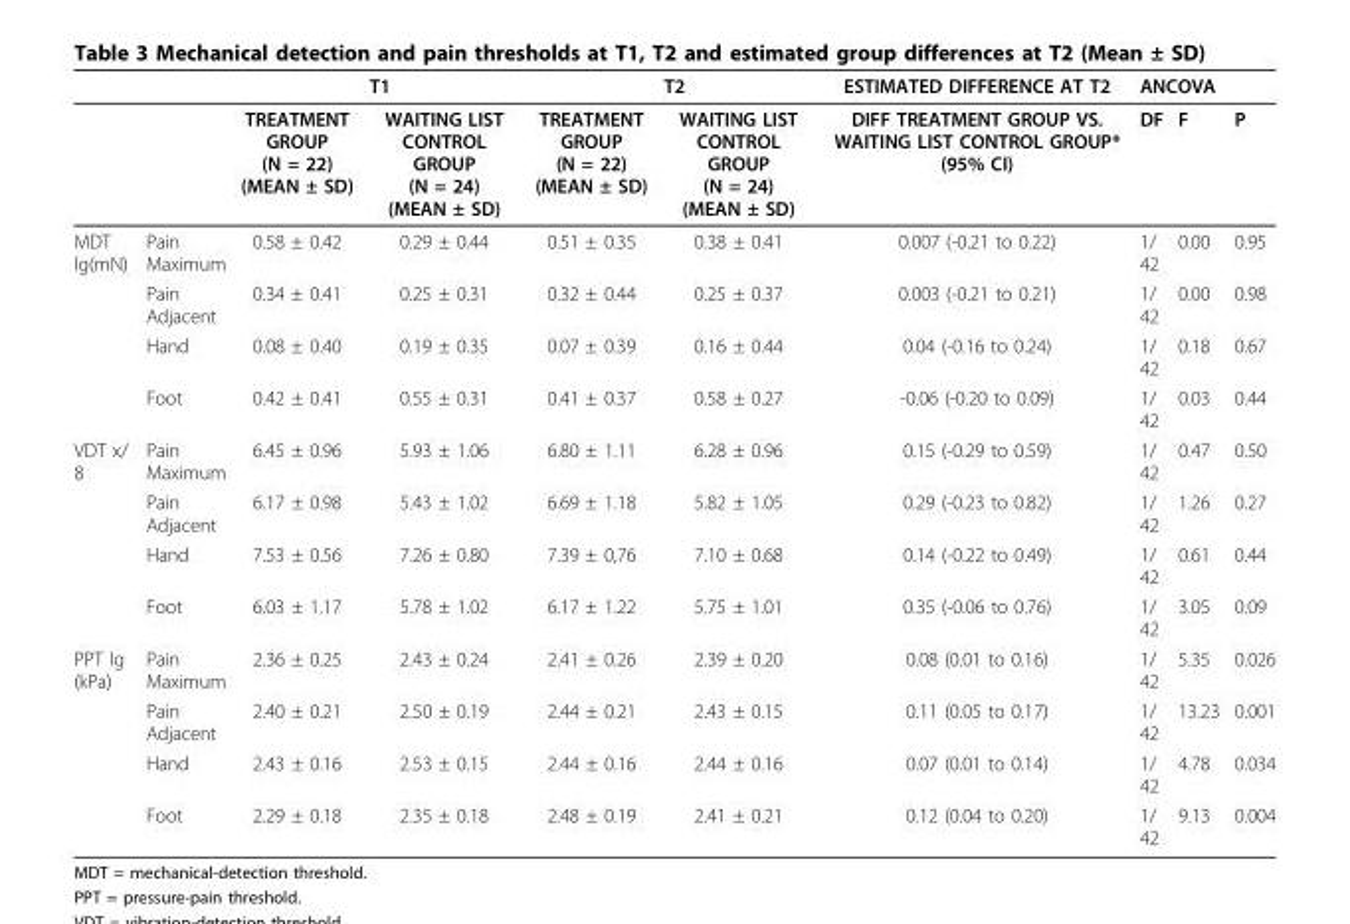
<table><thead><tr><td rowspan="2"></td><td rowspan="2"></td><td colspan="2">T1</td><td colspan="2">T2</td><td rowspan="2">ESTIMATED DIFFERENCE AT T2 DIFF TREATMENT GROUP VS. WAITING LIST CONTROL GROUP* (95% CI)</td><td colspan="3">ANCOVA</td></tr><tr><td>TREATMENT GROUP (N = 22) (MEAN ± SD)</td><td>WAITING LIST CONTROL GROUP (N = 24) (MEAN ± SD)</td><td>TREATMENT GROUP (N = 22) (MEAN ± SD)</td><td>WAITING LIST CONTROL GROUP (N = 24) (MEAN ± SD)</td><td>DF</td><td>F</td><td>P</td></tr></thead><tbody><tr><td rowspan="4">MDT lg(mN)</td><td>Pain Maximum</td><td>0.58 ± 0.42</td><td>0.29 ± 0.44</td><td>0.51 ± 0.35</td><td>0.38 ± 0.41</td><td>0.007 (-0.21 to 0.22)</td><td>1/ 42</td><td>0.00</td><td>0.95</td></tr><tr><td>Pain Adjacent</td><td>0.34 ± 0.41</td><td>0.25 ± 0.31</td><td>0.32 ± 0.44</td><td>0.25 ± 0.37</td><td>0.003 (-0.21 to 0.21)</td><td>1/ 42</td><td>0.00</td><td>0.98</td></tr><tr><td>Hand</td><td>0.08 ± 0.40</td><td>0.19 ± 0.35</td><td>0.07 ± 0.39</td><td>0.16 ± 0.44</td><td>0.04 (-0.16 to 0.24)</td><td>1/ 42</td><td>0.18</td><td>0.67</td></tr><tr><td>Foot</td><td>0.42 ± 0.41</td><td>0.55 ± 0.31</td><td>0.41 ± 0.37</td><td>0.58 ± 0.27</td><td>-0.06 (-0.20 to 0.09)</td><td>1/ 42</td><td>0.03</td><td>0.44</td></tr><tr><td rowspan="4">VDT x/ 8</td><td>Pain Maximum</td><td>6.45 ± 0.96</td><td>5.93 ± 1.06</td><td>6.80 ± 1.11</td><td>6.28 ± 0.96</td><td>0.15 (-0.29 to 0.59)</td><td>1/ 42</td><td>0.47</td><td>0.50</td></tr><tr><td>Pain Adjacent</td><td>6.17 ± 0.98</td><td>5.43 ± 1.02</td><td>6.69 ± 1.18</td><td>5.82 ± 1.05</td><td>0.29 (-0.23 to 0.82)</td><td>1/ 42</td><td>1.26</td><td>0.27</td></tr><tr><td>Hand</td><td>7.53 ± 0.56</td><td>7.26 ± 0.80</td><td>7.39 ± 0,76</td><td>7.10 ± 0.68</td><td>0.14 (-0.22 to 0.49)</td><td>1/ 42</td><td>0.61</td><td>0.44</td></tr><tr><td>Foot</td><td>6.03 ± 1.17</td><td>5.78 ± 1.02</td><td>6.17 ± 1.22</td><td>5.75 ± 1.01</td><td>0.35 (-0.06 to 0.76)</td><td>1/ 42</td><td>3.05</td><td>0.09</td></tr><tr><td rowspan="4">PPT lg (kPa)</td><td>Pain Maximum</td><td>2.36 ± 0.25</td><td>2.43 ± 0.24</td><td>2.41 ± 0.26</td><td>2.39 ± 0.20</td><td>0.08 (0.01 to 0.16)</td><td>1/ 42</td><td>5.35</td><td>0.026</td></tr><tr><td>Pain Adjacent</td><td>2.40 ± 0.21</td><td>2.50 ± 0.19</td><td>2.44 ± 0.21</td><td>2.43 ± 0.15</td><td>0.11 (0.05 to 0.17)</td><td>1/ 42</td><td>13.23</td><td>0.001</td></tr><tr><td>Hand</td><td>2.43 ± 0.16</td><td>2.53 ± 0.15</td><td>2.44 ± 0.16</td><td>2.44 ± 0.16</td><td>0.07 (0.01 to 0.14)</td><td>1/ 42</td><td>4.78</td><td>0.034</td></tr><tr><td>Foot</td><td>2.29 ± 0.18</td><td>2.35 ± 0.18</td><td>2.48 ± 0.19</td><td>2.41 ± 0.21</td><td>0.12 (0.04 to 0.20)</td><td>1/ 42</td><td>9.13</td><td>0.004</td></tr></tbody></table>